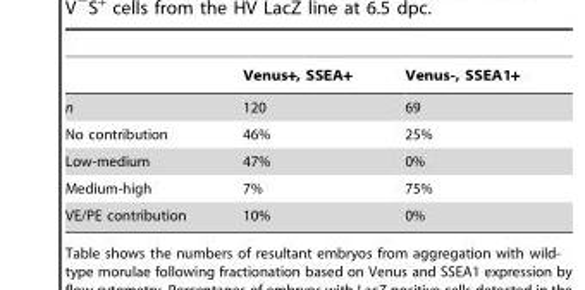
<table><thead><tr><td></td><td>Venus+, SSEA+</td><td>Venus-, SSEA1+</td></tr></thead><tbody><tr><td>n</td><td>120</td><td>69</td></tr><tr><td>No contribution</td><td>46%</td><td>25%</td></tr><tr><td>Low-medium</td><td>47%</td><td>0%</td></tr><tr><td>Medium-high</td><td>7%</td><td>75%</td></tr><tr><td>VE/PE contribution</td><td>10%</td><td>0%</td></tr></tbody></table>